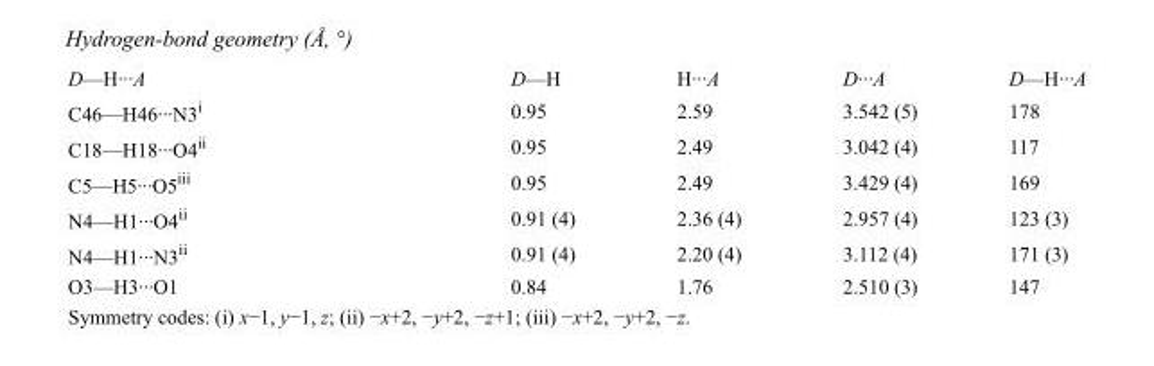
<table><tbody><tr><td>D—H···A</td><td>D—H</td><td>H···A</td><td>D···A</td><td>D—H···A</td></tr><tr><td>C46—H46···N3<sup>i</sup></td><td>0.95</td><td>2.59</td><td>3.542 (5)</td><td>178</td></tr><tr><td>C18—H18···O4<sup>ii</sup></td><td>0.95</td><td>2.49</td><td>3.042 (4)</td><td>117</td></tr><tr><td>C5—H5···O5<sup>iii</sup></td><td>0.95</td><td>2.49</td><td>3.429 (4)</td><td>169</td></tr><tr><td>N4—H1···O4<sup>ii</sup></td><td>0.91 (4)</td><td>2.36 (4)</td><td>2.957 (4)</td><td>123 (3)</td></tr><tr><td>N4—H1···N3<sup>ii</sup></td><td>0.91 (4)</td><td>2.20 (4)</td><td>3.112 (4)</td><td>171 (3)</td></tr><tr><td>O3—H3···O1</td><td>0.84</td><td>1.76</td><td>2.510 (3)</td><td>147</td></tr></tbody></table>